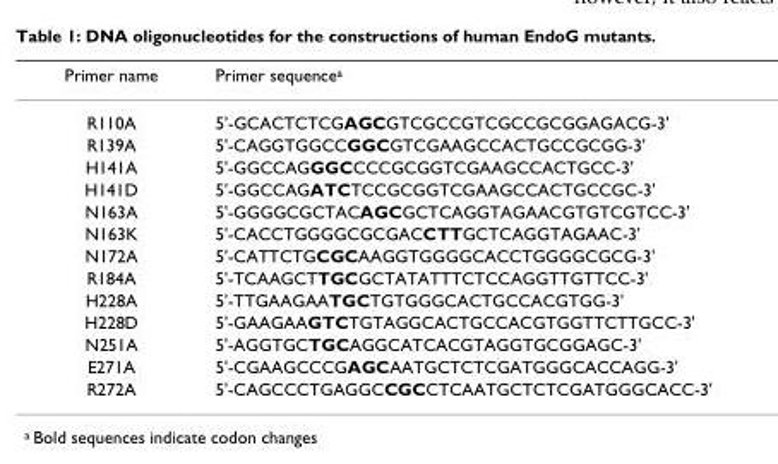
<table><thead><tr><td>Primer name</td><td>Primer sequence<sup>a</sup></td></tr></thead><tbody><tr><td>R110A</td><td>5&#x27;-GCACTCTCGAGCGTCGCCGTCGCCGCGGAGACG-3&#x27;</td></tr><tr><td>R139A</td><td>5&#x27;-CAGGTGGCCGGCGTCGAAGCCACTGCCGCGG-3&#x27;</td></tr><tr><td>H141A</td><td>5&#x27;-GGCCAGGGCCCCGCGGTCGAAGCCACTGCC-3&#x27;</td></tr><tr><td>H141D</td><td>5&#x27;-GGCCAGATCTCCGCGGTCGAAGCCACTGCCGC-3&#x27;</td></tr><tr><td>N163A</td><td>5&#x27;-GGGGCGCTACAGCGCTCAGGTAGAACGTGTCGTCC-3&#x27;</td></tr><tr><td>N163K</td><td>5&#x27;-CACCTGGGGCGCGACCTTGCTCAGGTAGAAC-3&#x27;</td></tr><tr><td>N172A</td><td>5&#x27;-CATTCTGCGCAAGGTGGGGCACCTGGGGCGCG-3&#x27;</td></tr><tr><td>R184A</td><td>5&#x27;-TCAAGCTTGCGCTATATTTCTCCAGGTTGTTCC-3&#x27;</td></tr><tr><td>H228A</td><td>5&#x27;-TTGAAGAATGCTGTGGGCACTGCCACGTGG-3&#x27;</td></tr><tr><td>H228D</td><td>5&#x27;-GAAGAAGTCTGTAGGCACTGCCACGTGGTTCTTGCC-3&#x27;</td></tr><tr><td>N251A</td><td>5&#x27;-AGGTGCTGCAGGCATCACGTAGGTGCGGAGC-3&#x27;</td></tr><tr><td>E271A</td><td>5&#x27;-CGAAGCCCGAGCAATGCTCTCGATGGGCACCAGG-3&#x27;</td></tr><tr><td>R272A</td><td>5&#x27;-CAGCCCTGAGGCCGCCTCAATGCTCTCGATGGGCACC-3&#x27;</td></tr></tbody></table>